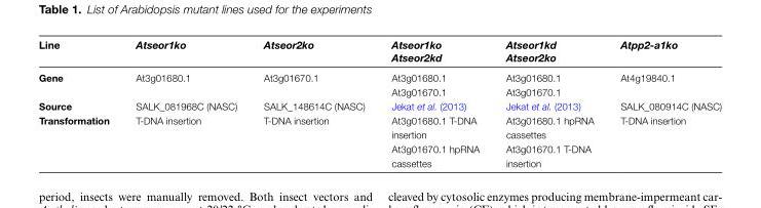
<table><thead><tr><td>Line</td><td>Atseor1ko</td><td>Atseor2ko</td><td>Atseor1ko Atseor2kd</td><td>Atseor1kd Atseor2ko</td><td>Atpp2-a1ko</td></tr></thead><tbody><tr><td>Gene</td><td>At3g01680.1</td><td>At3g01670.1</td><td>At3g01680.1 At3g01670.1</td><td>At3g01680.1 At3g01670.1</td><td>At4g19840.1</td></tr><tr><td>Source</td><td>SALK_081968C (NASC)</td><td>SALK_148614C (NASC)</td><td>Jekat et al. (2013)</td><td>Jekat et al. (2013)</td><td>SALK_080914C (NASC)</td></tr><tr><td>Transformation</td><td>T-DNA insertion</td><td>T-DNA insertion</td><td>At3g01680.1 T-DNA insertion At3g01670.1 hpRNA cassettes</td><td>At3g01680.1 hpRNA cassettes At3g01670.1 T-DNA insertion</td><td>T-DNA insertion</td></tr></tbody></table>